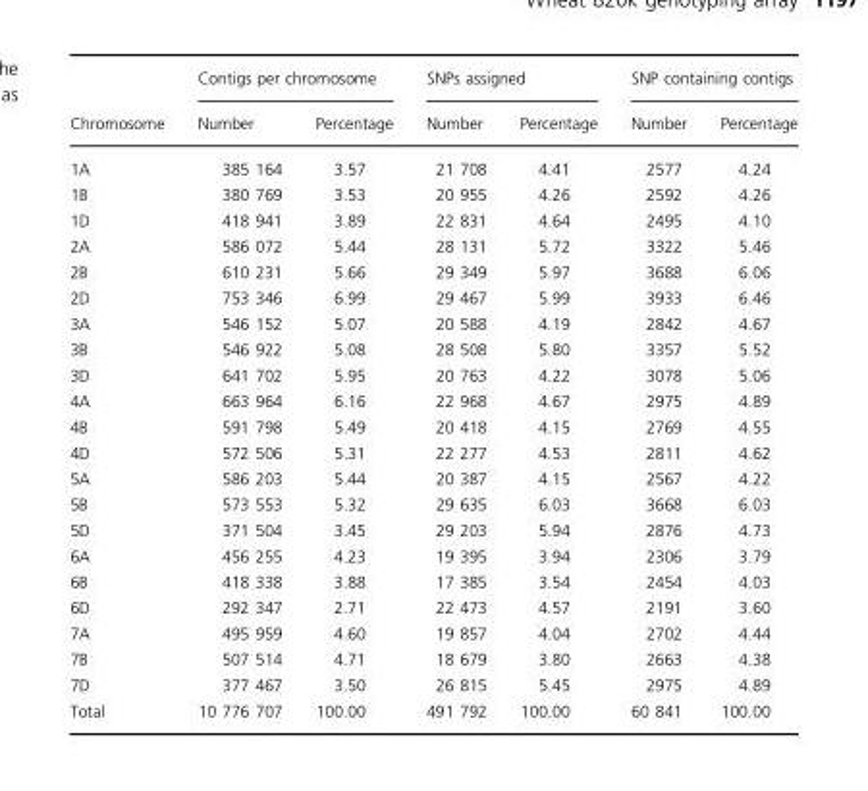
<table><thead><tr><td rowspan="2">Chromosome</td><td colspan="2">Contigs per chromosome</td><td colspan="2">SNPs assigned</td><td colspan="2">SNP containing contigs</td></tr><tr><td>Number</td><td>Percentage</td><td>Number</td><td>Percentage</td><td>Number</td><td>Percentage</td></tr></thead><tbody><tr><td>1A</td><td>385 164</td><td>3.57</td><td>21 708</td><td>4.41</td><td>2577</td><td>4.24</td></tr><tr><td>1B</td><td>380 769</td><td>3.53</td><td>20 955</td><td>4.26</td><td>2592</td><td>4.26</td></tr><tr><td>1D</td><td>418 941</td><td>3.89</td><td>22 831</td><td>4.64</td><td>2495</td><td>4.10</td></tr><tr><td>2A</td><td>586 072</td><td>5.44</td><td>28 131</td><td>5.72</td><td>3322</td><td>5.46</td></tr><tr><td>2B</td><td>610 231</td><td>5.66</td><td>29 349</td><td>5.97</td><td>3688</td><td>6.06</td></tr><tr><td>2D</td><td>753 346</td><td>6.99</td><td>29 467</td><td>5.99</td><td>3933</td><td>6.46</td></tr><tr><td>3A</td><td>546 152</td><td>5.07</td><td>20 588</td><td>4.19</td><td>2842</td><td>4.67</td></tr><tr><td>3B</td><td>546 922</td><td>5.08</td><td>28 508</td><td>5.80</td><td>3357</td><td>5.52</td></tr><tr><td>3D</td><td>641 702</td><td>5.95</td><td>20 763</td><td>4.22</td><td>3078</td><td>5.06</td></tr><tr><td>4A</td><td>663 964</td><td>6.16</td><td>22 968</td><td>4.67</td><td>2975</td><td>4.89</td></tr><tr><td>4B</td><td>591 798</td><td>5.49</td><td>20 418</td><td>4.15</td><td>2769</td><td>4.55</td></tr><tr><td>4D</td><td>572 506</td><td>5.31</td><td>22 277</td><td>4.53</td><td>2811</td><td>4.62</td></tr><tr><td>5A</td><td>586 203</td><td>5.44</td><td>20 387</td><td>4.15</td><td>2567</td><td>4.22</td></tr><tr><td>5B</td><td>573 553</td><td>5.32</td><td>29 635</td><td>6.03</td><td>3668</td><td>6.03</td></tr><tr><td>5D</td><td>371 504</td><td>3.45</td><td>29 203</td><td>5.94</td><td>2876</td><td>4.73</td></tr><tr><td>6A</td><td>456 255</td><td>4.23</td><td>19 395</td><td>3.94</td><td>2306</td><td>3.79</td></tr><tr><td>6B</td><td>418 338</td><td>3.88</td><td>17 385</td><td>3.54</td><td>2454</td><td>4.03</td></tr><tr><td>6D</td><td>292 347</td><td>2.71</td><td>22 473</td><td>4.57</td><td>2191</td><td>3.60</td></tr><tr><td>7A</td><td>495 959</td><td>4.60</td><td>19 857</td><td>4.04</td><td>2702</td><td>4.44</td></tr><tr><td>7B</td><td>507 514</td><td>4.71</td><td>18 679</td><td>3.80</td><td>2663</td><td>4.38</td></tr><tr><td>7D</td><td>377 467</td><td>3.50</td><td>26 815</td><td>5.45</td><td>2975</td><td>4.89</td></tr><tr><td>Total</td><td>10 776 707</td><td>100.00</td><td>491 792</td><td>100.00</td><td>60 841</td><td>100.00</td></tr></tbody></table>